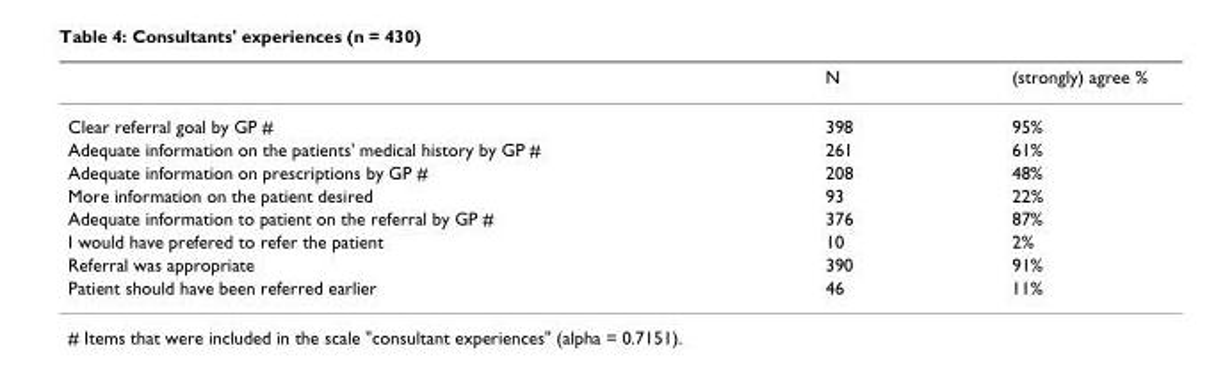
<table><thead><tr><td></td><td>N</td><td>(strongly) agree %</td></tr></thead><tbody><tr><td>Clear referral goal by GP #</td><td>398</td><td>95%</td></tr><tr><td>Adequate information on the patients&#x27; medical history by GP #</td><td>261</td><td>61%</td></tr><tr><td>Adequate information on prescriptions by GP #</td><td>208</td><td>48%</td></tr><tr><td>More information on the patient desired</td><td>93</td><td>22%</td></tr><tr><td>Adequate information to patient on the referral by GP #</td><td>376</td><td>87%</td></tr><tr><td>I would have prefered to refer the patient</td><td>10</td><td>2%</td></tr><tr><td>Referral was appropriate</td><td>390</td><td>91%</td></tr><tr><td>Patient should have been referred earlier</td><td>46</td><td>11%</td></tr></tbody></table>